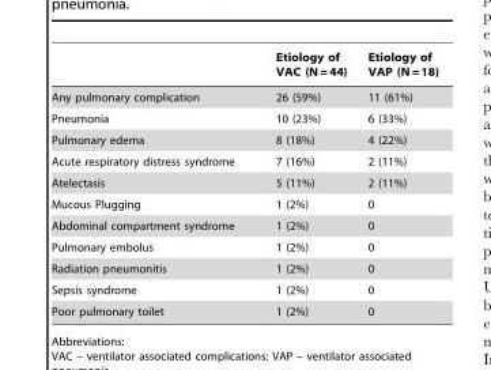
<table><thead><tr><td></td><td>Etiology of VAC (N = 44)</td><td>Etiology of VAP (N = 18)</td></tr></thead><tbody><tr><td>Any pulmonary complication</td><td>26 (59%)</td><td>11 (61%)</td></tr><tr><td>Pneumonia</td><td>10 (23%)</td><td>6 (33%)</td></tr><tr><td>Pulmonary edema</td><td>8 (18%)</td><td>4 (22%)</td></tr><tr><td>Acute respiratory distress syndrome</td><td>7 (16%)</td><td>2 (11%)</td></tr><tr><td>Atelectasis</td><td>5 (11%)</td><td>2 (11%)</td></tr><tr><td>Mucous Plugging</td><td>1 (2%)</td><td>0</td></tr><tr><td>Abdominal compartment syndrome</td><td>1 (2%)</td><td>0</td></tr><tr><td>Pulmonary embolus</td><td>1 (2%)</td><td>0</td></tr><tr><td>Radiation pneumonitis</td><td>1 (2%)</td><td>0</td></tr><tr><td>Sepsis syndrome</td><td>1 (2%)</td><td>0</td></tr><tr><td>Poor pulmonary toilet</td><td>1 (2%)</td><td>0</td></tr></tbody></table>